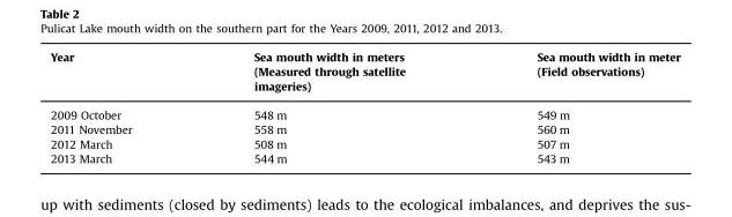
<table><thead><tr><td>Year</td><td>Sea mouth width in meters (Measured through satellite imageries)</td><td>Sea mouth width in meter (Field observations)</td></tr></thead><tbody><tr><td>2009 October</td><td>548 m</td><td>549 m</td></tr><tr><td>2011 November</td><td>558 m</td><td>560 m</td></tr><tr><td>2012 March</td><td>508 m</td><td>507 m</td></tr><tr><td>2013 March</td><td>544 m</td><td>543 m</td></tr></tbody></table>